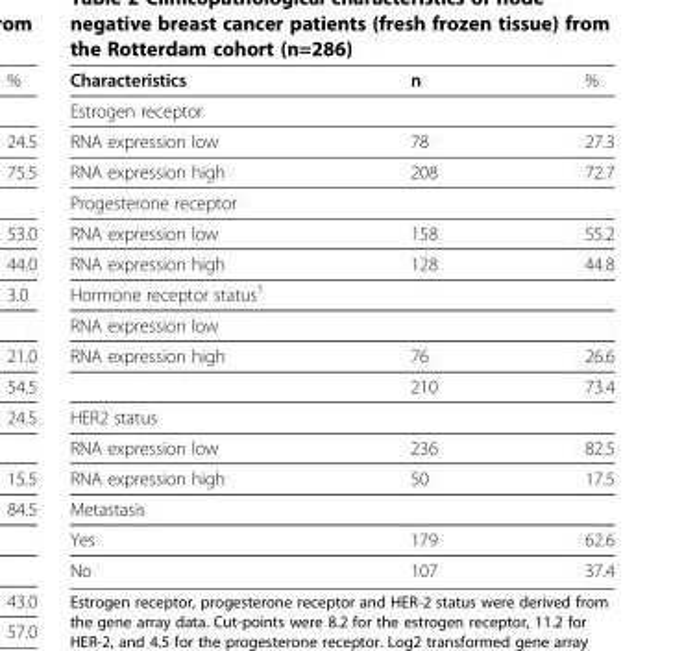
<table><thead><tr><td>Characteristics</td><td>n</td><td>%</td></tr></thead><tbody><tr><td colspan="3">Estrogen receptor</td></tr><tr><td>RNA expression low</td><td>78</td><td>27.3</td></tr><tr><td>RNA expression high</td><td>208</td><td>72.7</td></tr><tr><td colspan="3">Progesterone receptor</td></tr><tr><td>RNA expression low</td><td>158</td><td>55.2</td></tr><tr><td>RNA expression high</td><td>128</td><td>44.8</td></tr><tr><td colspan="3">Hormone receptor status<sup>1</sup></td></tr><tr><td colspan="3">RNA expression low</td></tr><tr><td rowspan="2">RNA expression high</td><td>76</td><td>26.6</td></tr><tr><td>210</td><td>73.4</td></tr><tr><td colspan="3">HER2 status</td></tr><tr><td>RNA expression low</td><td>236</td><td>82.5</td></tr><tr><td>RNA expression high</td><td>50</td><td>17.5</td></tr><tr><td colspan="3">Metastasis</td></tr><tr><td>Yes</td><td>179</td><td>62.6</td></tr><tr><td>No</td><td>107</td><td>37.4</td></tr></tbody></table>